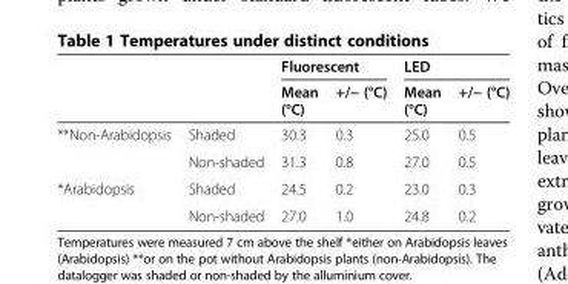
<table><thead><tr><td rowspan="2"></td><td rowspan="2"></td><td colspan="2">Fluorescent</td><td colspan="2">LED</td></tr><tr><td>Mean (°C)</td><td>+/− (°C)</td><td>Mean (°C)</td><td>+/− (°C)</td></tr></thead><tbody><tr><td rowspan="2">**Non-Arabidopsis</td><td>Shaded</td><td>30.3</td><td>0.3</td><td>25.0</td><td>0.5</td></tr><tr><td>Non-shaded</td><td>31.3</td><td>0.8</td><td>27.0</td><td>0.5</td></tr><tr><td rowspan="2">*Arabidopsis</td><td>Shaded</td><td>24.5</td><td>0.2</td><td>23.0</td><td>0.3</td></tr><tr><td>Non-shaded</td><td>27.0</td><td>1.0</td><td>24.8</td><td>0.2</td></tr></tbody></table>